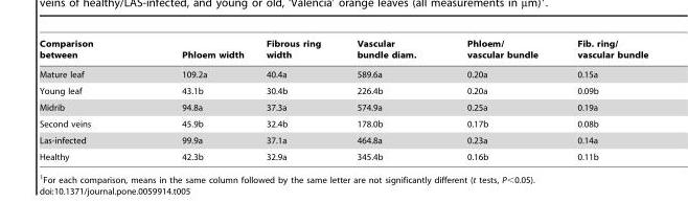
<table><thead><tr><td>Comparison between</td><td>Phloem width</td><td>Fibrous ring width</td><td>Vascular bundle diam.</td><td>Phloem/ vascular bundle</td><td>Fib. ring/ vascular bundle</td></tr></thead><tbody><tr><td>Mature leaf</td><td>109.2a</td><td>40.4a</td><td>589.6a</td><td>0.20a</td><td>0.15a</td></tr><tr><td>Young leaf</td><td>43.1b</td><td>30.4b</td><td>226.4b</td><td>0.20a</td><td>0.09b</td></tr><tr><td>Midrib</td><td>94.8a</td><td>37.3a</td><td>574.9a</td><td>0.25a</td><td>0.19a</td></tr><tr><td>Second veins</td><td>45.9b</td><td>32.4b</td><td>178.0b</td><td>0.17b</td><td>0.08b</td></tr><tr><td>Las-infected</td><td>99.9a</td><td>37.1a</td><td>464.8a</td><td>0.23a</td><td>0.14a</td></tr><tr><td>Healthy</td><td>42.3b</td><td>32.9a</td><td>345.4b</td><td>0.16b</td><td>0.11b</td></tr></tbody></table>